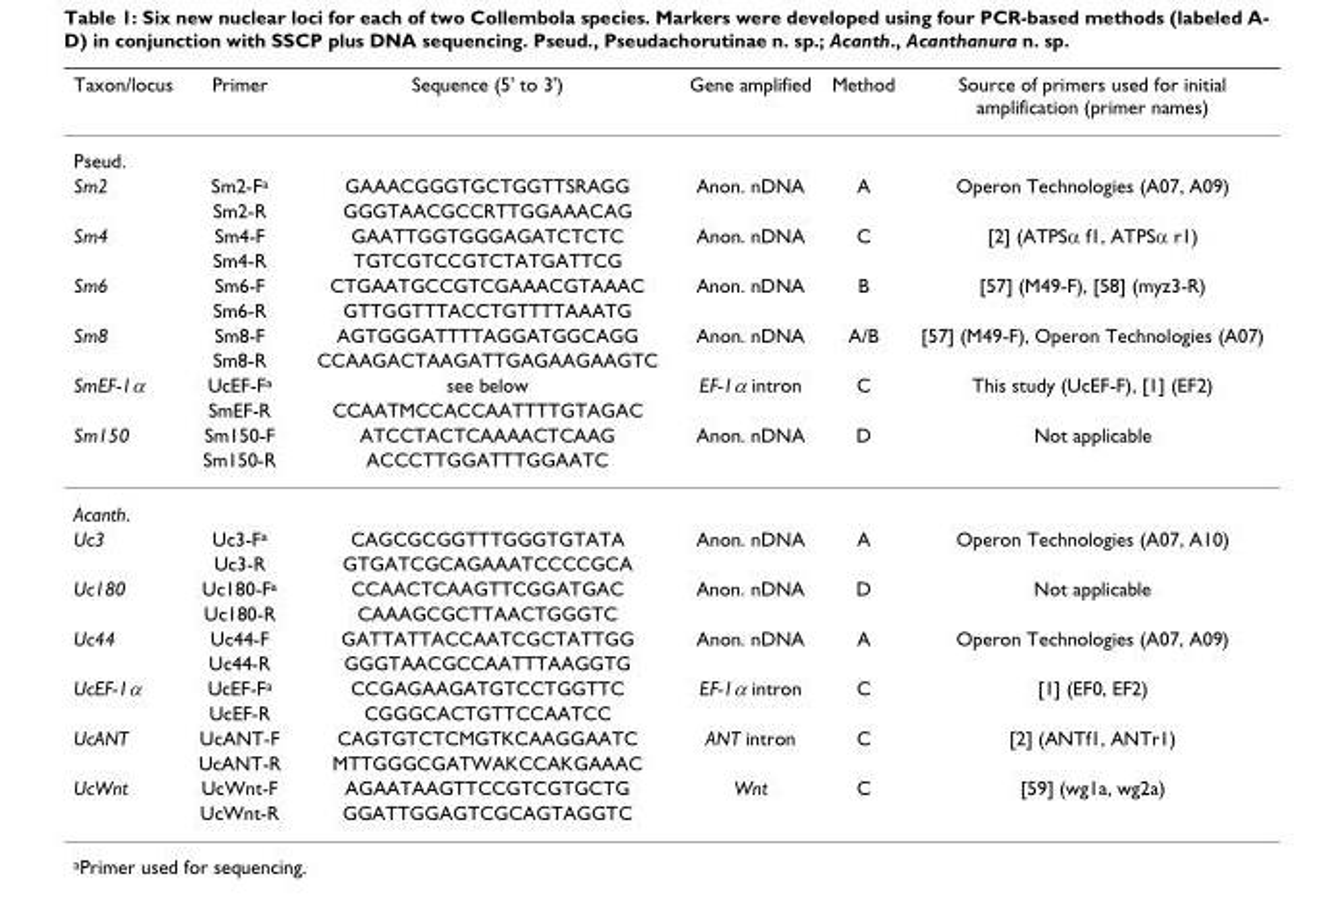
<table><thead><tr><td>Taxon/locus</td><td>Primer</td><td>Sequence (5&#x27; to 3&#x27;)</td><td>Gene amplified</td><td>Method</td><td>Source of primers used for initial amplification (primer names)</td></tr></thead><tbody><tr><td colspan="6">Pseud.</td></tr><tr><td rowspan="2">Sm2</td><td>Sm2-F<sup>a</sup></td><td>GAAACGGGTGCTGGTTSRAGG</td><td>Anon. nDNA</td><td>A</td><td>Operon Technologies (A07, A09)</td></tr><tr><td>Sm2-R</td><td>GGGTAACGCCRTTGGAAACAG</td><td></td><td></td><td></td></tr><tr><td rowspan="2">Sm4</td><td>Sm4-F</td><td>GAATTGGTGGGAGATCTCTC</td><td>Anon. nDNA</td><td>C</td><td>[2] (ATPSα f1, ATPSα r1)</td></tr><tr><td>Sm4-R</td><td>TGTCGTCCGTCTATGATTCG</td><td></td><td></td><td></td></tr><tr><td rowspan="2">Sm6</td><td>Sm6-F</td><td>CTGAATGCCGTCGAAACGTAAAC</td><td>Anon. nDNA</td><td>B</td><td>[57] (M49-F), [58] (myz3-R)</td></tr><tr><td>Sm6-R</td><td>GTTGGTTTACCTGTTTTAAATG</td><td></td><td></td><td></td></tr><tr><td rowspan="2">Sm8</td><td>Sm8-F</td><td>AGTGGGATTTTAGGATGGCAGG</td><td>Anon. nDNA</td><td>A/B</td><td>[57] (M49-F), Operon Technologies (A07)</td></tr><tr><td>Sm8-R</td><td>CCAAGACTAAGATTGAGAAGAAGTC</td><td></td><td></td><td></td></tr><tr><td rowspan="2">SmEF-1α</td><td>UcEF-F<sup>a</sup></td><td>see below</td><td>EF-1α intron</td><td>C</td><td>This study (UcEF-F), [1] (EF2)</td></tr><tr><td>SmEF-R</td><td>CCAATMCCACCAATTTTGTAGAC</td><td></td><td></td><td></td></tr><tr><td rowspan="2">Sm150</td><td>Sm150-F</td><td>ATCCTACTCAAAACTCAAG</td><td>Anon. nDNA</td><td>D</td><td>Not applicable</td></tr><tr><td>Sm150-R</td><td>ACCCTTGGATTTGGAATC</td><td></td><td></td><td></td></tr><tr><td colspan="6">Acanth.</td></tr><tr><td rowspan="2">Uc3</td><td>Uc3-F<sup>a</sup></td><td>CAGCGCGGTTTGGGTGTATA</td><td>Anon. nDNA</td><td>A</td><td>Operon Technologies (A07, A10)</td></tr><tr><td>Uc3-R</td><td>GTGATCGCAGAAATCCCCGCA</td><td></td><td></td><td></td></tr><tr><td rowspan="2">Uc180</td><td>Uc180-F<sup>a</sup></td><td>CCAACTCAAGTTCGGATGAC</td><td>Anon. nDNA</td><td>D</td><td>Not applicable</td></tr><tr><td>Uc180-R</td><td>CAAAGCGCTTAACTGGGTC</td><td></td><td></td><td></td></tr><tr><td rowspan="2">Uc44</td><td>Uc44-F</td><td>GATTATTACCAATCGCTATTGG</td><td>Anon. nDNA</td><td>A</td><td>Operon Technologies (A07, A09)</td></tr><tr><td>Uc44-R</td><td>GGGTAACGCCAATTTAAGGTG</td><td></td><td></td><td></td></tr><tr><td rowspan="2">UcEF-1α</td><td>UcEF-F<sup>a</sup></td><td>CCGAGAAGATGTCCTGGTTC</td><td>EF-1α intron</td><td>C</td><td>[1] (EF0, EF2)</td></tr><tr><td>UcEF-R</td><td>CGGGCACTGTTCCAATCC</td><td></td><td></td><td></td></tr><tr><td rowspan="2">UcANT</td><td>UcANT-F</td><td>CAGTGTCTCMGTKCAAGGAATC</td><td>ANT intron</td><td>C</td><td>[2] (ANTf1, ANTr1)</td></tr><tr><td>UcANT-R</td><td>MTTGGGCGATWAKCCAKGAAAC</td><td></td><td></td><td></td></tr><tr><td rowspan="2">UcWnt</td><td>UcWnt-F</td><td>AGAATAAGTTCCGTCGTGCTG</td><td>Wnt</td><td>C</td><td>[59] (wg1a, wg2a)</td></tr><tr><td>UcWnt-R</td><td>GGATTGGAGTCGCAGTAGGTC</td><td></td><td></td><td></td></tr></tbody></table>